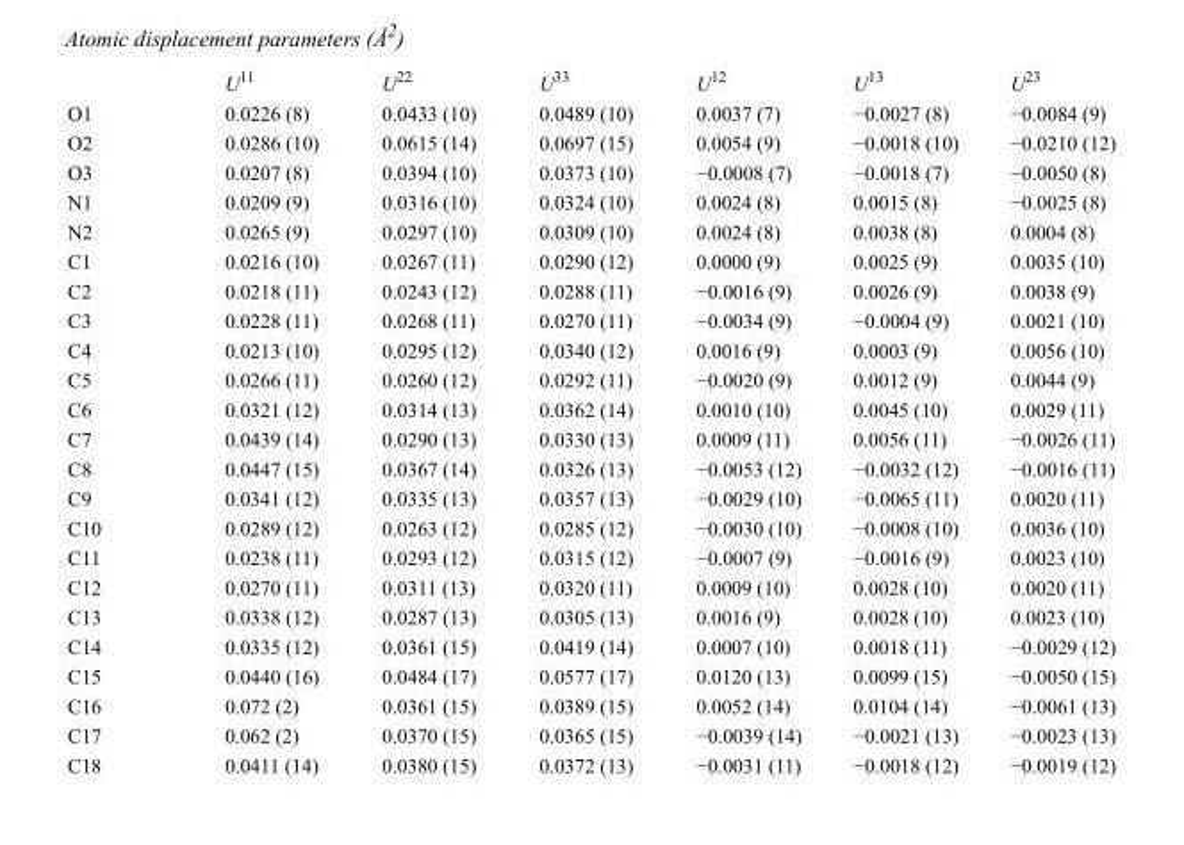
<table><thead><tr><td></td><td>U<sup>11</sup></td><td>U<sup>22</sup></td><td>U<sup>33</sup></td><td>U<sup>12</sup></td><td>U<sup>13</sup></td><td>U<sup>23</sup></td></tr></thead><tbody><tr><td>O1</td><td>0.0226 (8)</td><td>0.0433 (10)</td><td>0.0489 (10)</td><td>0.0037 (7)</td><td>−0.0027 (8)</td><td>−0.0084 (9)</td></tr><tr><td>O2</td><td>0.0286 (10)</td><td>0.0615 (14)</td><td>0.0697 (15)</td><td>0.0054 (9)</td><td>−0.0018 (10)</td><td>−0.0210 (12)</td></tr><tr><td>O3</td><td>0.0207 (8)</td><td>0.0394 (10)</td><td>0.0373 (10)</td><td>−0.0008 (7)</td><td>−0.0018 (7)</td><td>−0.0050 (8)</td></tr><tr><td>N1</td><td>0.0209 (9)</td><td>0.0316 (10)</td><td>0.0324 (10)</td><td>0.0024 (8)</td><td>0.0015 (8)</td><td>−0.0025 (8)</td></tr><tr><td>N2</td><td>0.0265 (9)</td><td>0.0297 (10)</td><td>0.0309 (10)</td><td>0.0024 (8)</td><td>0.0038 (8)</td><td>0.0004 (8)</td></tr><tr><td>C1</td><td>0.0216 (10)</td><td>0.0267 (11)</td><td>0.0290 (12)</td><td>0.0000 (9)</td><td>0.0025 (9)</td><td>0.0035 (10)</td></tr><tr><td>C2</td><td>0.0218 (11)</td><td>0.0243 (12)</td><td>0.0288 (11)</td><td>−0.0016 (9)</td><td>0.0026 (9)</td><td>0.0038 (9)</td></tr><tr><td>C3</td><td>0.0228 (11)</td><td>0.0268 (11)</td><td>0.0270 (11)</td><td>−0.0034 (9)</td><td>−0.0004 (9)</td><td>0.0021 (10)</td></tr><tr><td>C4</td><td>0.0213 (10)</td><td>0.0295 (12)</td><td>0.0340 (12)</td><td>0.0016 (9)</td><td>0.0003 (9)</td><td>0.0056 (10)</td></tr><tr><td>C5</td><td>0.0266 (11)</td><td>0.0260 (12)</td><td>0.0292 (11)</td><td>−0.0020 (9)</td><td>0.0012 (9)</td><td>0.0044 (9)</td></tr><tr><td>C6</td><td>0.0321 (12)</td><td>0.0314 (13)</td><td>0.0362 (14)</td><td>0.0010 (10)</td><td>0.0045 (10)</td><td>0.0029 (11)</td></tr><tr><td>C7</td><td>0.0439 (14)</td><td>0.0290 (13)</td><td>0.0330 (13)</td><td>0.0009 (11)</td><td>0.0056 (11)</td><td>−0.0026 (11)</td></tr><tr><td>C8</td><td>0.0447 (15)</td><td>0.0367 (14)</td><td>0.0326 (13)</td><td>−0.0053 (12)</td><td>−0.0032 (12)</td><td>−0.0016 (11)</td></tr><tr><td>C9</td><td>0.0341 (12)</td><td>0.0335 (13)</td><td>0.0357 (13)</td><td>−0.0029 (10)</td><td>−0.0065 (11)</td><td>0.0020 (11)</td></tr><tr><td>C10</td><td>0.0289 (12)</td><td>0.0263 (12)</td><td>0.0285 (12)</td><td>−0.0030 (10)</td><td>−0.0008 (10)</td><td>0.0036 (10)</td></tr><tr><td>C11</td><td>0.0238 (11)</td><td>0.0293 (12)</td><td>0.0315 (12)</td><td>−0.0007 (9)</td><td>−0.0016 (9)</td><td>0.0023 (10)</td></tr><tr><td>C12</td><td>0.0270 (11)</td><td>0.0311 (13)</td><td>0.0320 (11)</td><td>0.0009 (10)</td><td>0.0028 (10)</td><td>0.0020 (11)</td></tr><tr><td>C13</td><td>0.0338 (12)</td><td>0.0287 (13)</td><td>0.0305 (13)</td><td>0.0016 (9)</td><td>0.0028 (10)</td><td>0.0023 (10)</td></tr><tr><td>C14</td><td>0.0335 (12)</td><td>0.0361 (15)</td><td>0.0419 (14)</td><td>0.0007 (10)</td><td>0.0018 (11)</td><td>−0.0029 (12)</td></tr><tr><td>C15</td><td>0.0440 (16)</td><td>0.0484 (17)</td><td>0.0577 (17)</td><td>0.0120 (13)</td><td>0.0099 (15)</td><td>−0.0050 (15)</td></tr><tr><td>C16</td><td>0.072 (2)</td><td>0.0361 (15)</td><td>0.0389 (15)</td><td>0.0052 (14)</td><td>0.0104 (14)</td><td>−0.0061 (13)</td></tr><tr><td>C17</td><td>0.062 (2)</td><td>0.0370 (15)</td><td>0.0365 (15)</td><td>−0.0039 (14)</td><td>−0.0021 (13)</td><td>−0.0023 (13)</td></tr><tr><td>C18</td><td>0.0411 (14)</td><td>0.0380 (15)</td><td>0.0372 (13)</td><td>−0.0031 (11)</td><td>−0.0018 (12)</td><td>−0.0019 (12)</td></tr></tbody></table>